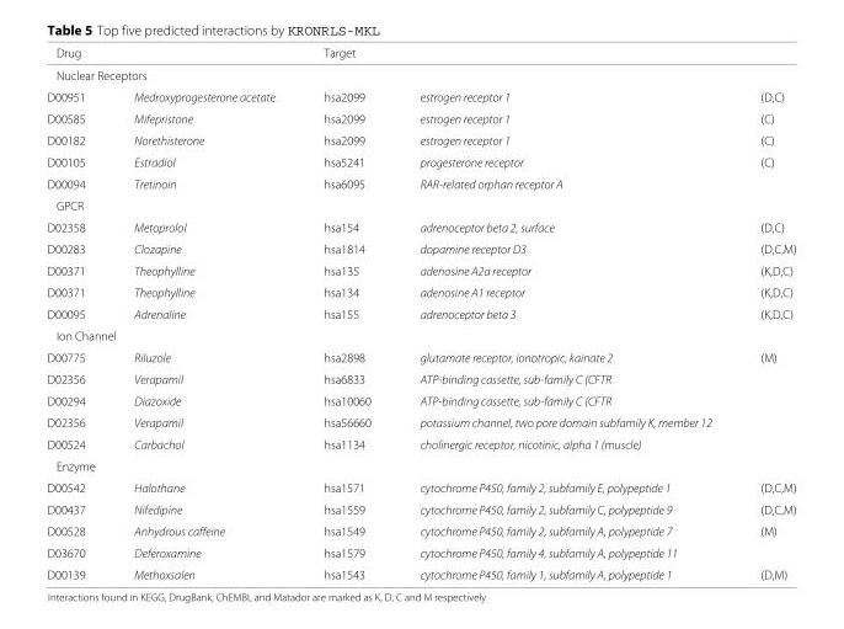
<table><thead><tr><td colspan="2">Drug</td><td colspan="2">Target</td><td rowspan="3">(D,C)</td></tr><tr><td colspan="4">Nuclear Receptors</td></tr><tr><td>D00951</td><td>Medroxyprogesterone acetate</td><td>hsa2099</td><td>estrogen receptor 1</td></tr></thead><tbody><tr><td>D00585</td><td>Mifepristone</td><td>hsa2099</td><td>estrogen receptor 1</td><td>(C)</td></tr><tr><td>D00182</td><td>Norethisterone</td><td>hsa2099</td><td>estrogen receptor 1</td><td>(C)</td></tr><tr><td>D00105</td><td>Estradiol</td><td>hsa5241</td><td>progesterone receptor</td><td>(C)</td></tr><tr><td>D00094</td><td>Tretinoin</td><td>hsa6095</td><td>RAR-related orphan receptor A</td><td></td></tr><tr><td colspan="5">GPCR</td></tr><tr><td>D02358</td><td>Metoprolol</td><td>hsa154</td><td>adrenoceptor beta 2, surface</td><td>(D,C)</td></tr><tr><td>D00283</td><td>Clozapine</td><td>hsa1814</td><td>dopamine receptor D3</td><td>(D,C,M)</td></tr><tr><td>D00371</td><td>Theophylline</td><td>hsa135</td><td>adenosine A2a receptor</td><td>(K,D,C)</td></tr><tr><td>D00371</td><td>Theophylline</td><td>hsa134</td><td>adenosine A1 receptor</td><td>(K,D,C)</td></tr><tr><td>D00095</td><td>Adrenaline</td><td>hsa155</td><td>adrenoceptor beta 3</td><td>(K,D,C)</td></tr><tr><td colspan="5">Ion Channel</td></tr><tr><td>D00775</td><td>Riluzole</td><td>hsa2898</td><td>glutamate receptor, ionotropic, kainate 2</td><td>(M)</td></tr><tr><td>D02356</td><td>Verapamil</td><td>hsa6833</td><td>ATP-binding cassette, sub-family C (CFTR</td><td></td></tr><tr><td>D00294</td><td>Diazoxide</td><td>hsa10060</td><td>ATP-binding cassette, sub-family C (CFTR</td><td></td></tr><tr><td>D02356</td><td>Verapamil</td><td>hsa56660</td><td>potassium channel, two pore domain subfamily K, member 12</td><td></td></tr><tr><td>D00524</td><td>Carbachol</td><td>hsa1134</td><td>cholinergic receptor, nicotinic, alpha 1 (muscle)</td><td></td></tr><tr><td colspan="5">Enzyme</td></tr><tr><td>D00542</td><td>Halothane</td><td>hsa1571</td><td>cytochrome P450, family 2, subfamily E, polypeptide 1</td><td>(D,C,M)</td></tr><tr><td>D00437</td><td>Nifedipine</td><td>hsa1559</td><td>cytochrome P450, family 2, subfamily C, polypeptide 9</td><td>(D,C,M)</td></tr><tr><td>D00528</td><td>Anhydrous caffeine</td><td>hsa1549</td><td>cytochrome P450, family 2, subfamily A, polypeptide 7</td><td>(M)</td></tr><tr><td>D03670</td><td>Deferoxamine</td><td>hsa1579</td><td>cytochrome P450, family 4, subfamily A, polypeptide 11</td><td></td></tr><tr><td>D00139</td><td>Methoxsalen</td><td>hsa1543</td><td>cytochrome P450, family 1, subfamily A, polypeptide 1</td><td>(D,M)</td></tr></tbody></table>